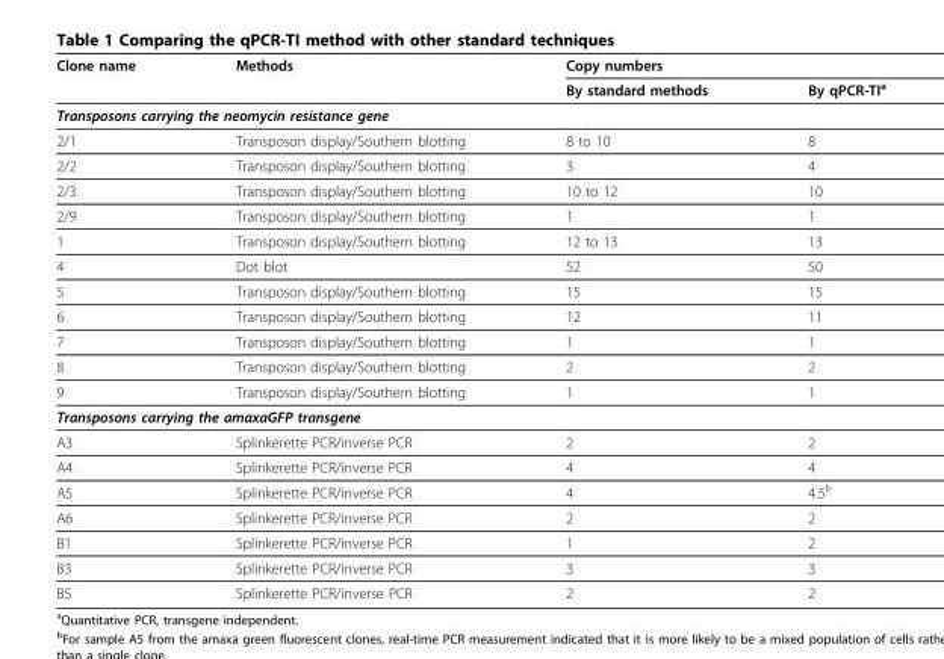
<table><thead><tr><td rowspan="2">Clone name</td><td rowspan="2">Methods</td><td colspan="2">Copy numbers</td></tr><tr><td>By standard methods</td><td>By qPCR-TI<sup>a</sup></td></tr></thead><tbody><tr><td colspan="4">Transposons carrying the neomycin resistance gene</td></tr><tr><td>2/1</td><td>Transposon display/Southern blotting</td><td>8 to 10</td><td>8</td></tr><tr><td>2/2</td><td>Transposon display/Southern blotting</td><td>3</td><td>4</td></tr><tr><td>2/3</td><td>Transposon display/Southern blotting</td><td>10 to 12</td><td>10</td></tr><tr><td>2/9</td><td>Transposon display/Southern blotting</td><td>1</td><td>1</td></tr><tr><td>1</td><td>Transposon display/Southern blotting</td><td>12 to 13</td><td>13</td></tr><tr><td>4</td><td>Dot blot</td><td>52</td><td>50</td></tr><tr><td>5</td><td>Transposon display/Southern blotting</td><td>15</td><td>15</td></tr><tr><td>6</td><td>Transposon display/Southern blotting</td><td>12</td><td>11</td></tr><tr><td>7</td><td>Transposon display/Southern blotting</td><td>1</td><td>1</td></tr><tr><td>8</td><td>Transposon display/Southern blotting</td><td>2</td><td>2</td></tr><tr><td>9</td><td>Transposon display/Southern blotting</td><td>1</td><td>1</td></tr><tr><td colspan="4">Transposons carrying the amaxaGFP transgene</td></tr><tr><td>A3</td><td>Splinkerette PCR/inverse PCR</td><td>2</td><td>2</td></tr><tr><td>A4</td><td>Splinkerette PCR/inverse PCR</td><td>4</td><td>4</td></tr><tr><td>A5</td><td>Splinkerette PCR/inverse PCR</td><td>4</td><td>4.5<sup>b</sup></td></tr><tr><td>A6</td><td>Splinkerette PCR/inverse PCR</td><td>2</td><td>2</td></tr><tr><td>B1</td><td>Splinkerette PCR/inverse PCR</td><td>1</td><td>2</td></tr><tr><td>B3</td><td>Splinkerette PCR/inverse PCR</td><td>3</td><td>3</td></tr><tr><td>B5</td><td>Splinkerette PCR/inverse PCR</td><td>2</td><td>2</td></tr></tbody></table>